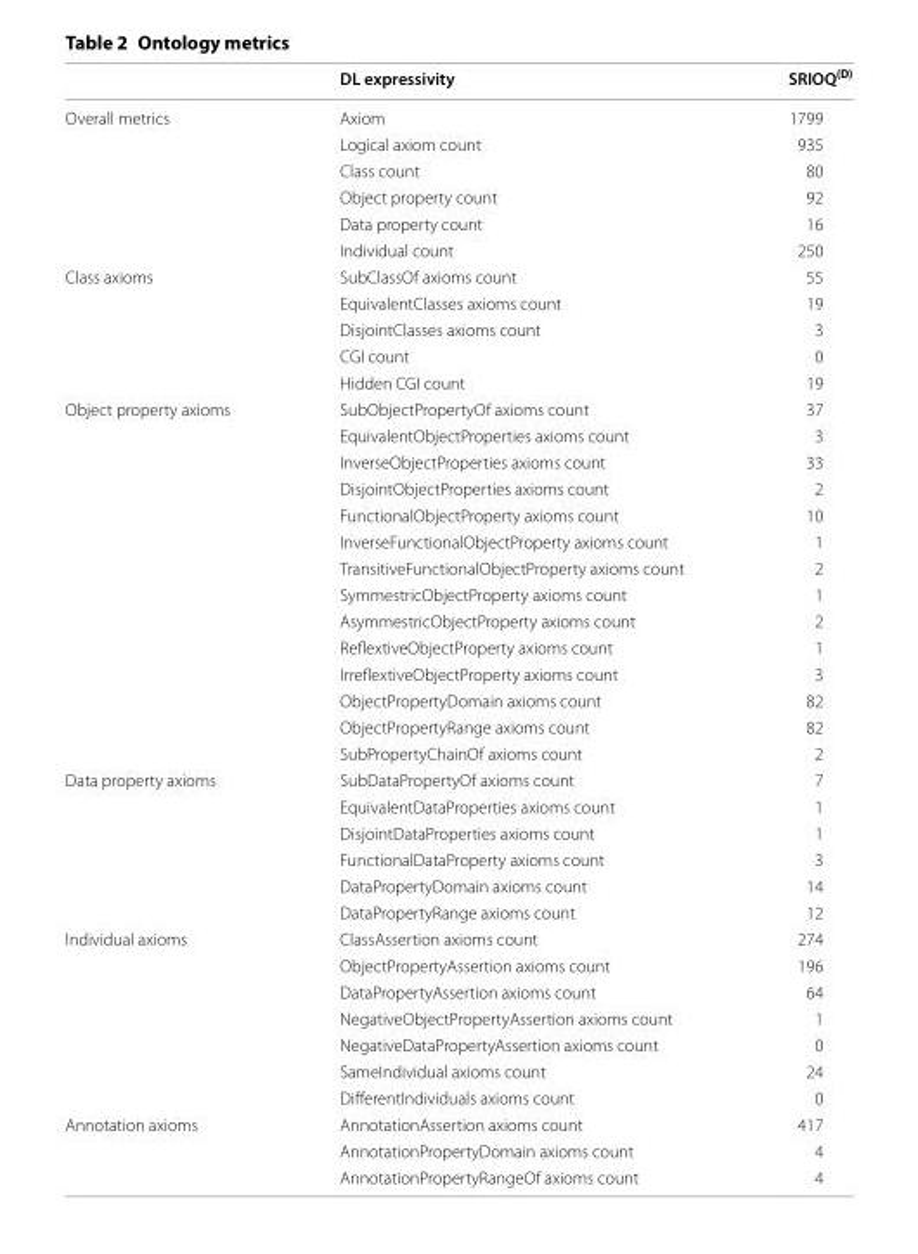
<table><thead><tr><td></td><td>DL expressivity</td><td>SRIOQ<sup>(D)</sup></td></tr></thead><tbody><tr><td rowspan="6">Overall metrics</td><td>Axiom</td><td>1799</td></tr><tr><td>Logical axiom count</td><td>935</td></tr><tr><td>Class count</td><td>80</td></tr><tr><td>Object property count</td><td>92</td></tr><tr><td>Data property count</td><td>16</td></tr><tr><td>Individual count</td><td>250</td></tr><tr><td rowspan="5">Class axioms</td><td>SubClassOf axioms count</td><td>55</td></tr><tr><td>EquivalentClasses axioms count</td><td>19</td></tr><tr><td>DisjointClasses axioms count</td><td>3</td></tr><tr><td>CGI count</td><td>0</td></tr><tr><td>Hidden CGI count</td><td>19</td></tr><tr><td rowspan="14">Object property axioms</td><td>SubObjectPropertyOf axioms count</td><td>37</td></tr><tr><td>EquivalentObjectProperties axioms count</td><td>3</td></tr><tr><td>InverseObjectProperties axioms count</td><td>33</td></tr><tr><td>DisjointObjectProperties axioms count</td><td>2</td></tr><tr><td>FunctionalObjectProperty axioms count</td><td>10</td></tr><tr><td>InverseFunctionalObjectProperty axioms count</td><td>1</td></tr><tr><td>TransitiveFunctionalObjectProperty axioms count</td><td>2</td></tr><tr><td>SymmestricObjectProperty axioms count</td><td>1</td></tr><tr><td>AsymmestricObjectProperty axioms count</td><td>2</td></tr><tr><td>ReflextiveObjectProperty axioms count</td><td>1</td></tr><tr><td>IrreflextiveObjectProperty axioms count</td><td>3</td></tr><tr><td>ObjectPropertyDomain axioms count</td><td>82</td></tr><tr><td>ObjectPropertyRange axioms count</td><td>82</td></tr><tr><td>SubPropertyChainOf axioms count</td><td>2</td></tr><tr><td rowspan="6">Data property axioms</td><td>SubDataPropertyOf axioms count</td><td>7</td></tr><tr><td>EquivalentDataProperties axioms count</td><td>1</td></tr><tr><td>DisjointDataProperties axioms count</td><td>1</td></tr><tr><td>FunctionalDataProperty axioms count</td><td>3</td></tr><tr><td>DataPropertyDomain axioms count</td><td>14</td></tr><tr><td>DataPropertyRange axioms count</td><td>12</td></tr><tr><td rowspan="7">Individual axioms</td><td>ClassAssertion axioms count</td><td>274</td></tr><tr><td>ObjectPropertyAssertion axioms count</td><td>196</td></tr><tr><td>DataPropertyAssertion axioms count</td><td>64</td></tr><tr><td>NegativeObjectPropertyAssertion axioms count</td><td>1</td></tr><tr><td>NegativeDataPropertyAssertion axioms count</td><td>0</td></tr><tr><td>SameIndividual axioms count</td><td>24</td></tr><tr><td>DifferentIndividuals axioms count</td><td>0</td></tr><tr><td rowspan="3">Annotation axioms</td><td>AnnotationAssertion axioms count</td><td>417</td></tr><tr><td>AnnotationPropertyDomain axioms count</td><td>4</td></tr><tr><td>AnnotationPropertyRangeOf axioms count</td><td>4</td></tr></tbody></table>